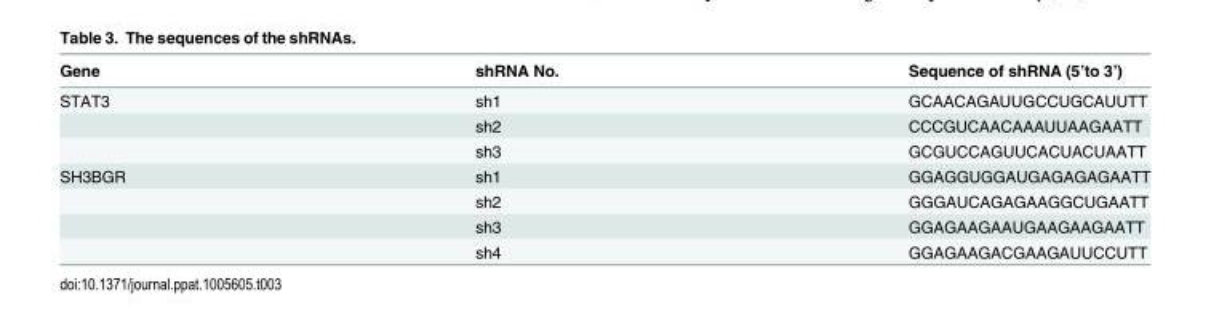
<table><thead><tr><td>Gene</td><td>shRNA No.</td><td>Sequence of shRNA (5’to 3’)</td></tr></thead><tbody><tr><td rowspan="3">STAT3</td><td>sh1</td><td>GCAACAGAUUGCCUGCAUUTT</td></tr><tr><td>sh2</td><td>CCCGUCAACAAAUUAAGAATT</td></tr><tr><td>sh3</td><td>GCGUCCAGUUCACUACUAATT</td></tr><tr><td rowspan="4">SH3BGR</td><td>sh1</td><td>GGAGGUGGAUGAGAGAGAATT</td></tr><tr><td>sh2</td><td>GGGAUCAGAGAAGGCUGAATT</td></tr><tr><td>sh3</td><td>GGAGAAGAAUGAAGAAGAATT</td></tr><tr><td>sh4</td><td>GGAGAAGACGAAGAUUCCUTT</td></tr></tbody></table>